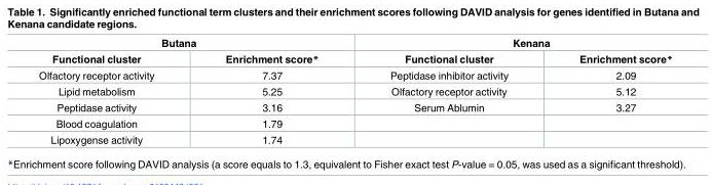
<table><thead><tr><td colspan="2">Butana</td><td colspan="2">Kenana</td></tr><tr><td>Functional cluster</td><td>Enrichment score*</td><td>Functional cluster</td><td>Enrichment score*</td></tr></thead><tbody><tr><td>Olfactory receptor activity</td><td>7.37</td><td>Peptidase inhibitor activity</td><td>2.09</td></tr><tr><td>Lipid metabolism</td><td>5.25</td><td>Olfactory receptor activity</td><td>5.12</td></tr><tr><td>Peptidase activity</td><td>3.16</td><td>Serum Ablumin</td><td>3.27</td></tr><tr><td>Blood coagulation</td><td>1.79</td><td></td><td></td></tr><tr><td>Lipoxygense activity</td><td>1.74</td><td></td><td></td></tr></tbody></table>